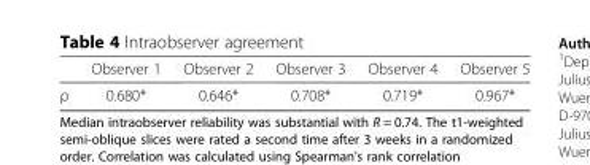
<table><thead><tr><td></td><td>Observer 1</td><td>Observer 2</td><td>Observer 3</td><td>Observer 4</td><td>Observer 5</td></tr></thead><tbody><tr><td>ρ</td><td>0.680*</td><td>0.646*</td><td>0.708*</td><td>0.719*</td><td>0.967*</td></tr></tbody></table>